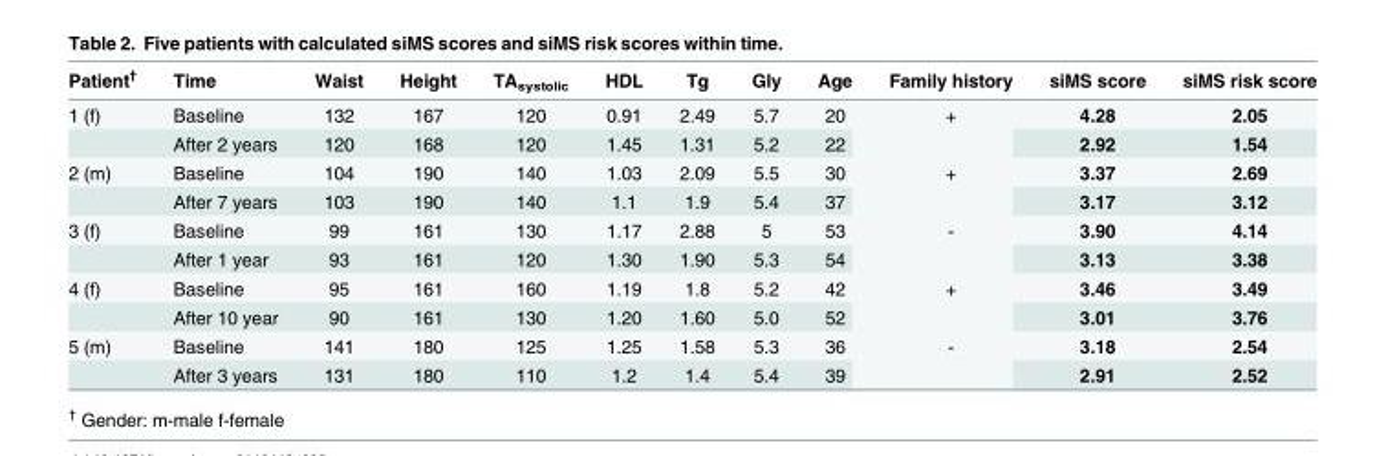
<table><thead><tr><td>Patient<sup>†</sup></td><td>Time</td><td>Waist</td><td>Height</td><td>TA<sub>systolic</sub></td><td>HDL</td><td>Tg</td><td>Gly</td><td>Age</td><td>Family history</td><td>siMS score</td><td>siMS risk score</td></tr></thead><tbody><tr><td rowspan="2">1 (f)</td><td>Baseline</td><td>132</td><td>167</td><td>120</td><td>0.91</td><td>2.49</td><td>5.7</td><td>20</td><td rowspan="2">+</td><td>4.28</td><td>2.05</td></tr><tr><td>After 2 years</td><td>120</td><td>168</td><td>120</td><td>1.45</td><td>1.31</td><td>5.2</td><td>22</td><td>2.92</td><td>1.54</td></tr><tr><td rowspan="2">2 (m)</td><td>Baseline</td><td>104</td><td>190</td><td>140</td><td>1.03</td><td>2.09</td><td>5.5</td><td>30</td><td rowspan="2">+</td><td>3.37</td><td>2.69</td></tr><tr><td>After 7 years</td><td>103</td><td>190</td><td>140</td><td>1.1</td><td>1.9</td><td>5.4</td><td>37</td><td>3.17</td><td>3.12</td></tr><tr><td rowspan="2">3 (f)</td><td>Baseline</td><td>99</td><td>161</td><td>130</td><td>1.17</td><td>2.88</td><td>5</td><td>53</td><td rowspan="2">-</td><td>3.90</td><td>4.14</td></tr><tr><td>After 1 year</td><td>93</td><td>161</td><td>120</td><td>1.30</td><td>1.90</td><td>5.3</td><td>54</td><td>3.13</td><td>3.38</td></tr><tr><td rowspan="2">4 (f)</td><td>Baseline</td><td>95</td><td>161</td><td>160</td><td>1.19</td><td>1.8</td><td>5.2</td><td>42</td><td rowspan="2">+</td><td>3.46</td><td>3.49</td></tr><tr><td>After 10 year</td><td>90</td><td>161</td><td>130</td><td>1.20</td><td>1.60</td><td>5.0</td><td>52</td><td>3.01</td><td>3.76</td></tr><tr><td rowspan="2">5 (m)</td><td>Baseline</td><td>141</td><td>180</td><td>125</td><td>1.25</td><td>1.58</td><td>5.3</td><td>36</td><td rowspan="2">-</td><td>3.18</td><td>2.54</td></tr><tr><td>After 3 years</td><td>131</td><td>180</td><td>110</td><td>1.2</td><td>1.4</td><td>5.4</td><td>39</td><td>2.91</td><td>2.52</td></tr></tbody></table>